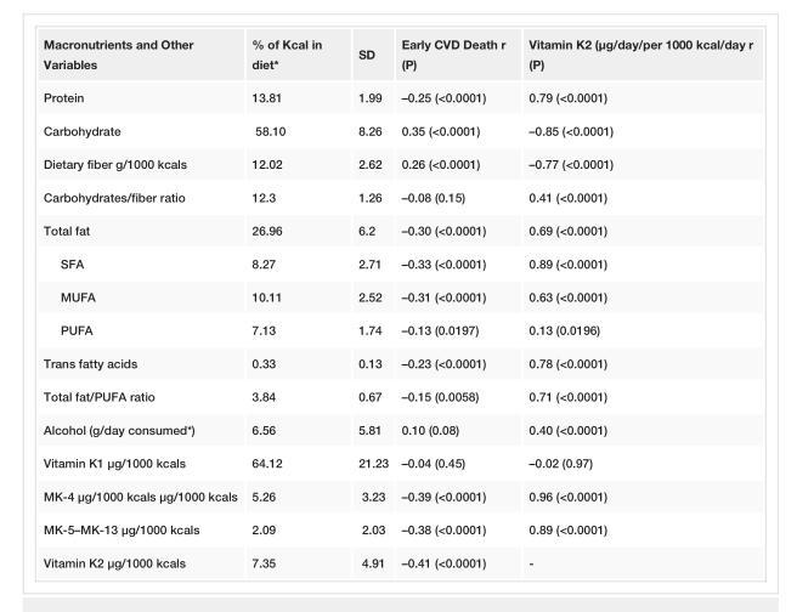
<table><tbody><tr><td>Macronutrients and Other Variables</td><td>% of Kcal in diet*</td><td>SD</td><td>Early CVD Death r (P)</td><td>Vitamin K2 (µg/day/per 1000 kcal/day r (P)</td></tr><tr><td>Protein</td><td>13.81</td><td>1.99</td><td>–0.25 (&lt;0.0001)</td><td>0.79 (&lt;0.0001)</td></tr><tr><td>Carbohydrate</td><td>58.10</td><td>8.26</td><td>0.35 (&lt;0.0001)</td><td>–0.85 (&lt;0.0001)</td></tr><tr><td>Dietary fiber g/1000 kcals</td><td>12.02</td><td>2.62</td><td>0.26 (&lt;0.0001)</td><td>–0.77 (&lt;0.0001)</td></tr><tr><td>Carbohydrates/fiber ratio</td><td>12.3</td><td>1.26</td><td>–0.08 (0.15)</td><td>0.41 (&lt;0.0001)</td></tr><tr><td>Total fat</td><td>26.96</td><td>6.2</td><td>–0.30 (&lt;0.0001)</td><td>0.69 (&lt;0.0001)</td></tr><tr><td>SFA</td><td>8.27</td><td>2.71</td><td>–0.33 (&lt;0.0001)</td><td>0.89 (&lt;0.0001)</td></tr><tr><td>MUFA</td><td>10.11</td><td>2.52</td><td>–0.31 (&lt;0.0001)</td><td>0.63 (&lt;0.0001)</td></tr><tr><td>PUFA</td><td>7.13</td><td>1.74</td><td>–0.13 (0.0197)</td><td>0.13 (0.0196)</td></tr><tr><td>Trans fatty acids</td><td>0.33</td><td>0.13</td><td>–0.23 (&lt;0.0001)</td><td>0.78 (&lt;0.0001)</td></tr><tr><td>Total fat/PUFA ratio</td><td>3.84</td><td>0.67</td><td>–0.15 (0.0058)</td><td>0.71 (&lt;0.0001)</td></tr><tr><td>Alcohol (g/day consumed*)</td><td>6.56</td><td>5.81</td><td>0.10 (0.08)</td><td>0.40 (&lt;0.0001)</td></tr><tr><td>Vitamin K1 µg/1000 kcals</td><td>64.12</td><td>21.23</td><td>–0.04 (0.45)</td><td>–0.02 (0.97)</td></tr><tr><td>MK-4 µg/1000 kcals µg/1000 kcals</td><td>5.26</td><td>3.23</td><td>–0.39 (&lt;0.0001)</td><td>0.96 (&lt;0.0001)</td></tr><tr><td>MK-5–MK-13 µg/1000 kcals</td><td>2.09</td><td>2.03</td><td>–0.38 (&lt;0.0001)</td><td>0.89 (&lt;0.0001)</td></tr><tr><td>Vitamin K2 µg/1000 kcals</td><td>7.35</td><td>4.91</td><td>–0.41 (&lt;0.0001)</td><td>-</td></tr></tbody></table>